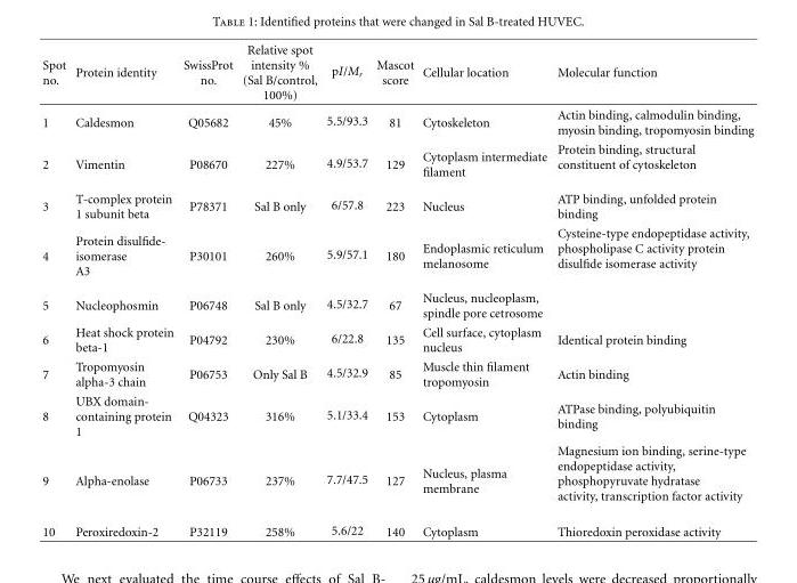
<table><thead><tr><td>Spot no.</td><td>Protein identity</td><td>SwissProt no.</td><td>Relative spot intensity % (Sal B/control, 100%)</td><td>pI/M<sub>r</sub></td><td>Mascot score</td><td>Cellular location</td><td>Molecular function</td></tr></thead><tbody><tr><td>1</td><td>Caldesmon</td><td>Q05682</td><td>45%</td><td>5.5/93.3</td><td>81</td><td>Cytoskeleton</td><td>Actin binding, calmodulin binding, myosin binding, tropomyosin binding</td></tr><tr><td>2</td><td>Vimentin</td><td>P08670</td><td>227%</td><td>4.9/53.7</td><td>129</td><td>Cytoplasm intermediate filament</td><td>Protein binding, structural constituent of cytoskeleton</td></tr><tr><td>3</td><td>T-complex protein 1 subunit beta</td><td>P78371</td><td>Sal B only</td><td>6/57.8</td><td>223</td><td>Nucleus</td><td>ATP binding, unfolded protein binding</td></tr><tr><td>4</td><td>Protein disulfide- isomerase A3</td><td>P30101</td><td>260%</td><td>5.9/57.1</td><td>180</td><td>Endoplasmic reticulum melanosome</td><td>Cysteine-type endopeptidase activity, phospholipase C activity protein disulfide isomerase activity</td></tr><tr><td>5</td><td>Nucleophosmin</td><td>P06748</td><td>Sal B only</td><td>4.5/32.7</td><td>67</td><td>Nucleus, nucleoplasm, spindle pore cetrosome</td><td></td></tr><tr><td>6</td><td>Heat shock protein beta-1</td><td>P04792</td><td>230%</td><td>6/22.8</td><td>135</td><td>Cell surface, cytoplasm nucleus</td><td>Identical protein binding</td></tr><tr><td>7</td><td>Tropomyosin alpha-3 chain</td><td>P06753</td><td>Only Sal B</td><td>4.5/32.9</td><td>85</td><td>Muscle thin filament tropomyosin</td><td>Actin binding</td></tr><tr><td>8</td><td>UBX domain- containing protein 1</td><td>Q04323</td><td>316%</td><td>5.1/33.4</td><td>153</td><td>Cytoplasm</td><td>ATPase binding, polyubiquitin binding</td></tr><tr><td>9</td><td>Alpha-enolase</td><td>P06733</td><td>237%</td><td>7.7/47.5</td><td>127</td><td>Nucleus, plasma membrane</td><td>Magnesium ion binding, serine-type endopeptidase activity, phosphopyruvate hydratase activity, transcription factor activity</td></tr><tr><td>10</td><td>Peroxiredoxin-2</td><td>P32119</td><td>258%</td><td>5.6/22</td><td>140</td><td>Cytoplasm</td><td>Thioredoxin peroxidase activity</td></tr></tbody></table>